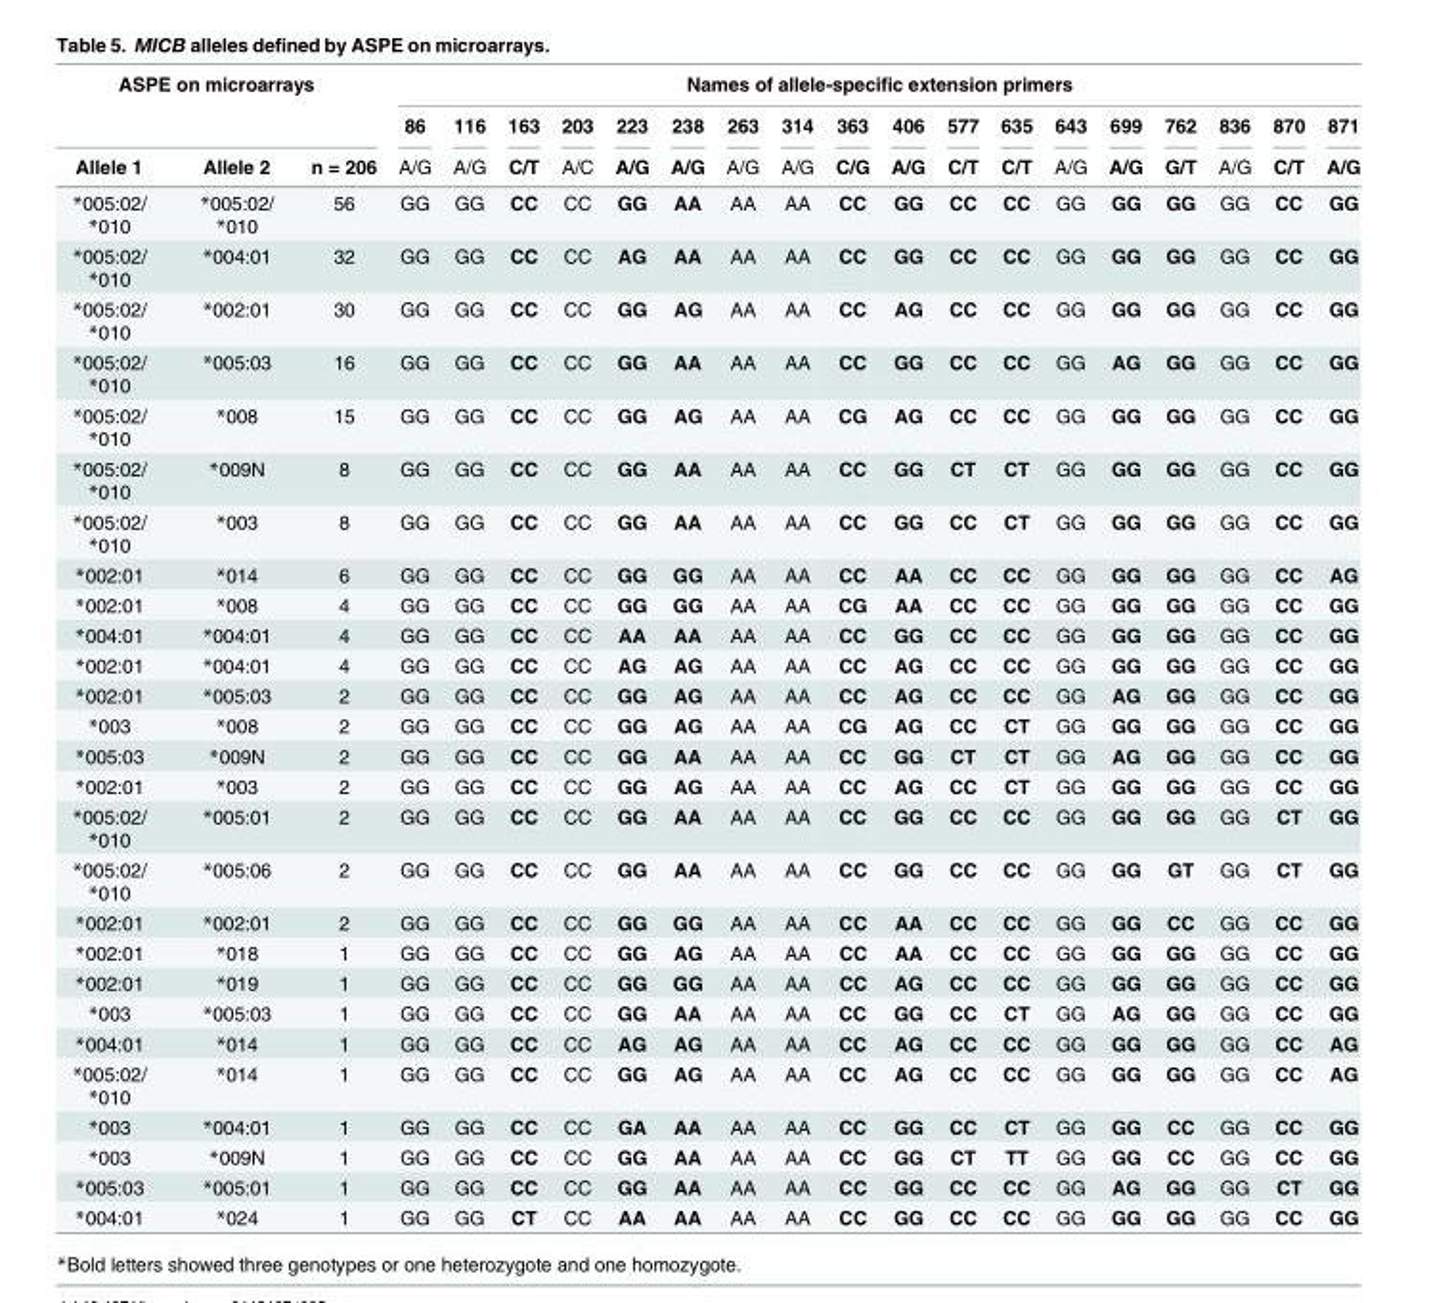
<table><thead><tr><td rowspan="2" colspan="3">ASPE on microarrays</td><td colspan="18">Names of allele-specific extension primers</td></tr><tr><td rowspan="2">86 A/G</td><td rowspan="2">116 A/G</td><td rowspan="2">163 C/T</td><td rowspan="2">203 A/C</td><td rowspan="2">223 A/G</td><td rowspan="2">238 A/G</td><td rowspan="2">263 A/G</td><td rowspan="2">314 A/G</td><td rowspan="2">363 C/G</td><td rowspan="2">406 A/G</td><td rowspan="2">577 C/T</td><td rowspan="2">635 C/T</td><td rowspan="2">643 A/G</td><td rowspan="2">699 A/G</td><td rowspan="2">762 G/T</td><td rowspan="2">836 A/G</td><td rowspan="2">870 C/T</td><td rowspan="2">871 A/G</td></tr><tr><td>Allele 1</td><td>Allele 2</td><td>n = 206</td></tr></thead><tbody><tr><td>*005:02/ *010</td><td>*005:02/ *010</td><td>56</td><td>GG</td><td>GG</td><td>CC</td><td>CC</td><td>GG</td><td>AA</td><td>AA</td><td>AA</td><td>CC</td><td>GG</td><td>CC</td><td>CC</td><td>GG</td><td>GG</td><td>GG</td><td>GG</td><td>CC</td><td>GG</td></tr><tr><td>*005:02/ *010</td><td>*004:01</td><td>32</td><td>GG</td><td>GG</td><td>CC</td><td>CC</td><td>AG</td><td>AA</td><td>AA</td><td>AA</td><td>CC</td><td>GG</td><td>CC</td><td>CC</td><td>GG</td><td>GG</td><td>GG</td><td>GG</td><td>CC</td><td>GG</td></tr><tr><td>*005:02/ *010</td><td>*002:01</td><td>30</td><td>GG</td><td>GG</td><td>CC</td><td>CC</td><td>GG</td><td>AG</td><td>AA</td><td>AA</td><td>CC</td><td>AG</td><td>CC</td><td>CC</td><td>GG</td><td>GG</td><td>GG</td><td>GG</td><td>CC</td><td>GG</td></tr><tr><td>*005:02/ *010</td><td>*005:03</td><td>16</td><td>GG</td><td>GG</td><td>CC</td><td>CC</td><td>GG</td><td>AA</td><td>AA</td><td>AA</td><td>CC</td><td>GG</td><td>CC</td><td>CC</td><td>GG</td><td>AG</td><td>GG</td><td>GG</td><td>CC</td><td>GG</td></tr><tr><td>*005:02/ *010</td><td>*008</td><td>15</td><td>GG</td><td>GG</td><td>CC</td><td>CC</td><td>GG</td><td>AG</td><td>AA</td><td>AA</td><td>CG</td><td>AG</td><td>CC</td><td>CC</td><td>GG</td><td>GG</td><td>GG</td><td>GG</td><td>CC</td><td>GG</td></tr><tr><td>*005:02/ *010</td><td>*009N</td><td>8</td><td>GG</td><td>GG</td><td>CC</td><td>CC</td><td>GG</td><td>AA</td><td>AA</td><td>AA</td><td>CC</td><td>GG</td><td>CT</td><td>CT</td><td>GG</td><td>GG</td><td>GG</td><td>GG</td><td>CC</td><td>GG</td></tr><tr><td>*005:02/ *010</td><td>*003</td><td>8</td><td>GG</td><td>GG</td><td>CC</td><td>CC</td><td>GG</td><td>AA</td><td>AA</td><td>AA</td><td>CC</td><td>GG</td><td>CC</td><td>CT</td><td>GG</td><td>GG</td><td>GG</td><td>GG</td><td>CC</td><td>GG</td></tr><tr><td>*002:01</td><td>*014</td><td>6</td><td>GG</td><td>GG</td><td>CC</td><td>CC</td><td>GG</td><td>GG</td><td>AA</td><td>AA</td><td>CC</td><td>AA</td><td>CC</td><td>CC</td><td>GG</td><td>GG</td><td>GG</td><td>GG</td><td>CC</td><td>AG</td></tr><tr><td>*002:01</td><td>*008</td><td>4</td><td>GG</td><td>GG</td><td>CC</td><td>CC</td><td>GG</td><td>GG</td><td>AA</td><td>AA</td><td>CG</td><td>AA</td><td>CC</td><td>CC</td><td>GG</td><td>GG</td><td>GG</td><td>GG</td><td>CC</td><td>GG</td></tr><tr><td>*004:01</td><td>*004:01</td><td>4</td><td>GG</td><td>GG</td><td>CC</td><td>CC</td><td>AA</td><td>AA</td><td>AA</td><td>AA</td><td>CC</td><td>GG</td><td>CC</td><td>CC</td><td>GG</td><td>GG</td><td>GG</td><td>GG</td><td>CC</td><td>GG</td></tr><tr><td>*002:01</td><td>*004:01</td><td>4</td><td>GG</td><td>GG</td><td>CC</td><td>CC</td><td>AG</td><td>AG</td><td>AA</td><td>AA</td><td>CC</td><td>AG</td><td>CC</td><td>CC</td><td>GG</td><td>GG</td><td>GG</td><td>GG</td><td>CC</td><td>GG</td></tr><tr><td>*002:01</td><td>*005:03</td><td>2</td><td>GG</td><td>GG</td><td>CC</td><td>CC</td><td>GG</td><td>AG</td><td>AA</td><td>AA</td><td>CC</td><td>AG</td><td>CC</td><td>CC</td><td>GG</td><td>AG</td><td>GG</td><td>GG</td><td>CC</td><td>GG</td></tr><tr><td>*003</td><td>*008</td><td>2</td><td>GG</td><td>GG</td><td>CC</td><td>CC</td><td>GG</td><td>AG</td><td>AA</td><td>AA</td><td>CG</td><td>AG</td><td>CC</td><td>CT</td><td>GG</td><td>GG</td><td>GG</td><td>GG</td><td>CC</td><td>GG</td></tr><tr><td>*005:03</td><td>*009N</td><td>2</td><td>GG</td><td>GG</td><td>CC</td><td>CC</td><td>GG</td><td>AA</td><td>AA</td><td>AA</td><td>CC</td><td>GG</td><td>CT</td><td>CT</td><td>GG</td><td>AG</td><td>GG</td><td>GG</td><td>CC</td><td>GG</td></tr><tr><td>*002:01</td><td>*003</td><td>2</td><td>GG</td><td>GG</td><td>CC</td><td>CC</td><td>GG</td><td>AG</td><td>AA</td><td>AA</td><td>CC</td><td>AG</td><td>CC</td><td>CT</td><td>GG</td><td>GG</td><td>GG</td><td>GG</td><td>CC</td><td>GG</td></tr><tr><td>*005:02/ *010</td><td>*005:01</td><td>2</td><td>GG</td><td>GG</td><td>CC</td><td>CC</td><td>GG</td><td>AA</td><td>AA</td><td>AA</td><td>CC</td><td>GG</td><td>CC</td><td>CC</td><td>GG</td><td>GG</td><td>GG</td><td>GG</td><td>CT</td><td>GG</td></tr><tr><td>*005:02/ *010</td><td>*005:06</td><td>2</td><td>GG</td><td>GG</td><td>CC</td><td>CC</td><td>GG</td><td>AA</td><td>AA</td><td>AA</td><td>CC</td><td>GG</td><td>CC</td><td>CC</td><td>GG</td><td>GG</td><td>GT</td><td>GG</td><td>CT</td><td>GG</td></tr><tr><td>*002:01</td><td>*002:01</td><td>2</td><td>GG</td><td>GG</td><td>CC</td><td>CC</td><td>GG</td><td>GG</td><td>AA</td><td>AA</td><td>CC</td><td>AA</td><td>CC</td><td>CC</td><td>GG</td><td>GG</td><td>CC</td><td>GG</td><td>CC</td><td>GG</td></tr><tr><td>*002:01</td><td>*018</td><td>1</td><td>GG</td><td>GG</td><td>CC</td><td>CC</td><td>GG</td><td>AG</td><td>AA</td><td>AA</td><td>CC</td><td>AA</td><td>CC</td><td>CC</td><td>GG</td><td>GG</td><td>GG</td><td>GG</td><td>CC</td><td>GG</td></tr><tr><td>*002:01</td><td>*019</td><td>1</td><td>GG</td><td>GG</td><td>CC</td><td>CC</td><td>GG</td><td>GG</td><td>AA</td><td>AA</td><td>CC</td><td>AG</td><td>CC</td><td>CC</td><td>GG</td><td>GG</td><td>GG</td><td>GG</td><td>CC</td><td>GG</td></tr><tr><td>*003</td><td>*005:03</td><td>1</td><td>GG</td><td>GG</td><td>CC</td><td>CC</td><td>GG</td><td>AA</td><td>AA</td><td>AA</td><td>CC</td><td>GG</td><td>CC</td><td>CT</td><td>GG</td><td>AG</td><td>GG</td><td>GG</td><td>CC</td><td>GG</td></tr><tr><td>*004:01</td><td>*014</td><td>1</td><td>GG</td><td>GG</td><td>CC</td><td>CC</td><td>AG</td><td>AG</td><td>AA</td><td>AA</td><td>CC</td><td>AG</td><td>CC</td><td>CC</td><td>GG</td><td>GG</td><td>GG</td><td>GG</td><td>CC</td><td>AG</td></tr><tr><td>*005:02/ *010</td><td>*014</td><td>1</td><td>GG</td><td>GG</td><td>CC</td><td>CC</td><td>GG</td><td>AG</td><td>AA</td><td>AA</td><td>CC</td><td>AG</td><td>CC</td><td>CC</td><td>GG</td><td>GG</td><td>GG</td><td>GG</td><td>CC</td><td>AG</td></tr><tr><td>*003</td><td>*004:01</td><td>1</td><td>GG</td><td>GG</td><td>CC</td><td>CC</td><td>GA</td><td>AA</td><td>AA</td><td>AA</td><td>CC</td><td>GG</td><td>CC</td><td>CT</td><td>GG</td><td>GG</td><td>CC</td><td>GG</td><td>CC</td><td>GG</td></tr><tr><td>*003</td><td>*009N</td><td>1</td><td>GG</td><td>GG</td><td>CC</td><td>CC</td><td>GG</td><td>AA</td><td>AA</td><td>AA</td><td>CC</td><td>GG</td><td>CT</td><td>TT</td><td>GG</td><td>GG</td><td>CC</td><td>GG</td><td>CC</td><td>GG</td></tr><tr><td>*005:03</td><td>*005:01</td><td>1</td><td>GG</td><td>GG</td><td>CC</td><td>CC</td><td>GG</td><td>AA</td><td>AA</td><td>AA</td><td>CC</td><td>GG</td><td>CC</td><td>CC</td><td>GG</td><td>AG</td><td>GG</td><td>GG</td><td>CT</td><td>GG</td></tr><tr><td>*004:01</td><td>*024</td><td>1</td><td>GG</td><td>GG</td><td>CT</td><td>CC</td><td>AA</td><td>AA</td><td>AA</td><td>AA</td><td>CC</td><td>GG</td><td>CC</td><td>CC</td><td>GG</td><td>GG</td><td>GG</td><td>GG</td><td>CC</td><td>GG</td></tr></tbody></table>